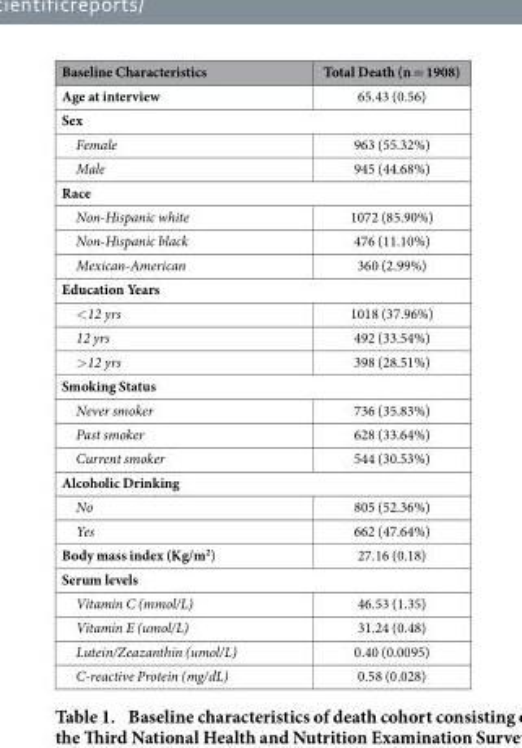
<table><thead><tr><td>Baseline Characteristics</td><td>Total Death (n = 1908)</td></tr></thead><tbody><tr><td>Age at interview</td><td>65.43 (0.56)</td></tr><tr><td colspan="2">Sex</td></tr><tr><td>Female</td><td>963 (55.32%)</td></tr><tr><td>Male</td><td>945 (44.68%)</td></tr><tr><td colspan="2">Race</td></tr><tr><td>Non-Hispanic white</td><td>1072 (85.90%)</td></tr><tr><td>Non-Hispanic black</td><td>476 (11.10%)</td></tr><tr><td>Mexican-American</td><td>360 (2.99%)</td></tr><tr><td colspan="2">Education Years</td></tr><tr><td>&lt; 12 yrs</td><td>1018 (37.96%)</td></tr><tr><td>12 yrs</td><td>492 (33.54%)</td></tr><tr><td>&gt; 12 yrs</td><td>398 (28.51%)</td></tr><tr><td colspan="2">Smoking Status</td></tr><tr><td>Never smoker</td><td>736 (35.83%)</td></tr><tr><td>Past smoker</td><td>628 (33.64%)</td></tr><tr><td>Current smoker</td><td>544 (30.53%)</td></tr><tr><td colspan="2">Alcoholic Drinking</td></tr><tr><td>No</td><td>805 (52.36%)</td></tr><tr><td>Yes</td><td>662 (47.64%)</td></tr><tr><td>Body mass index (Kg/m<sup>2</sup>)</td><td>27.16 (0.18)</td></tr><tr><td colspan="2">Serum levels</td></tr><tr><td>Vitamin C (mmol/L)</td><td>46.53 (1.35)</td></tr><tr><td>Vitamin E (umol/L)</td><td>31.24 (0.48)</td></tr><tr><td>Lutein/Zeazanthin (umol/L)</td><td>0.40 (0.0095)</td></tr><tr><td>C-reactive Protein (mg/dL)</td><td>0.58 (0.028)</td></tr></tbody></table>